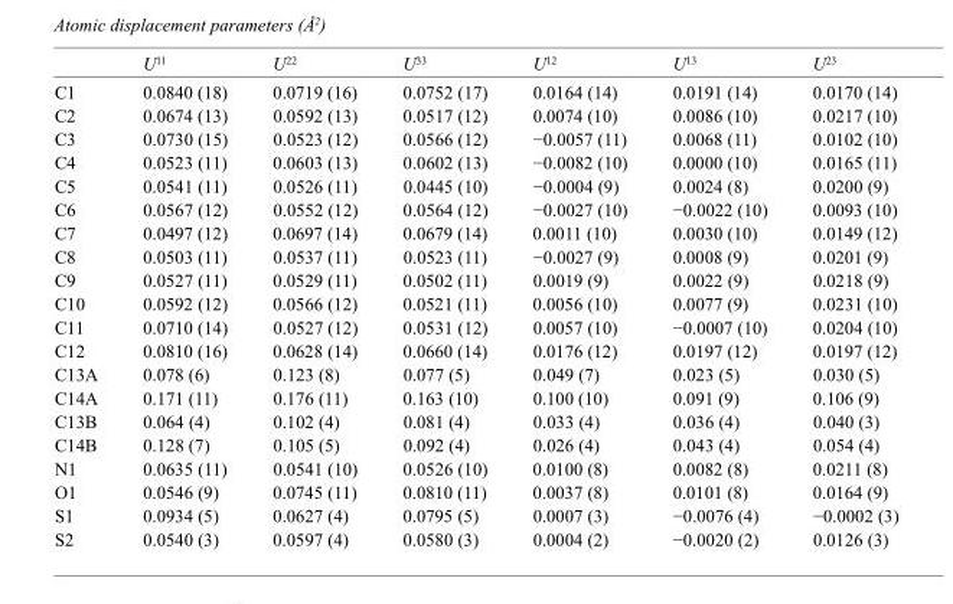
<table><thead><tr><td></td><td>U<sup>11</sup></td><td>U<sup>22</sup></td><td>U<sup>33</sup></td><td>U<sup>12</sup></td><td>U<sup>13</sup></td><td>U<sup>23</sup></td></tr></thead><tbody><tr><td>C1</td><td>0.0840 (18)</td><td>0.0719 (16)</td><td>0.0752 (17)</td><td>0.0164 (14)</td><td>0.0191 (14)</td><td>0.0170 (14)</td></tr><tr><td>C2</td><td>0.0674 (13)</td><td>0.0592 (13)</td><td>0.0517 (12)</td><td>0.0074 (10)</td><td>0.0086 (10)</td><td>0.0217 (10)</td></tr><tr><td>C3</td><td>0.0730 (15)</td><td>0.0523 (12)</td><td>0.0566 (12)</td><td>−0.0057 (11)</td><td>0.0068 (11)</td><td>0.0102 (10)</td></tr><tr><td>C4</td><td>0.0523 (11)</td><td>0.0603 (13)</td><td>0.0602 (13)</td><td>−0.0082 (10)</td><td>0.0000 (10)</td><td>0.0165 (11)</td></tr><tr><td>C5</td><td>0.0541 (11)</td><td>0.0526 (11)</td><td>0.0445 (10)</td><td>−0.0004 (9)</td><td>0.0024 (8)</td><td>0.0200 (9)</td></tr><tr><td>C6</td><td>0.0567 (12)</td><td>0.0552 (12)</td><td>0.0564 (12)</td><td>−0.0027 (10)</td><td>−0.0022 (10)</td><td>0.0093 (10)</td></tr><tr><td>C7</td><td>0.0497 (12)</td><td>0.0697 (14)</td><td>0.0679 (14)</td><td>0.0011 (10)</td><td>0.0030 (10)</td><td>0.0149 (12)</td></tr><tr><td>C8</td><td>0.0503 (11)</td><td>0.0537 (11)</td><td>0.0523 (11)</td><td>−0.0027 (9)</td><td>0.0008 (9)</td><td>0.0201 (9)</td></tr><tr><td>C9</td><td>0.0527 (11)</td><td>0.0529 (11)</td><td>0.0502 (11)</td><td>0.0019 (9)</td><td>0.0022 (9)</td><td>0.0218 (9)</td></tr><tr><td>C10</td><td>0.0592 (12)</td><td>0.0566 (12)</td><td>0.0521 (11)</td><td>0.0056 (10)</td><td>0.0077 (9)</td><td>0.0231 (10)</td></tr><tr><td>C11</td><td>0.0710 (14)</td><td>0.0527 (12)</td><td>0.0531 (12)</td><td>0.0057 (10)</td><td>−0.0007 (10)</td><td>0.0204 (10)</td></tr><tr><td>C12</td><td>0.0810 (16)</td><td>0.0628 (14)</td><td>0.0660 (14)</td><td>0.0176 (12)</td><td>0.0197 (12)</td><td>0.0197 (12)</td></tr><tr><td>C13A</td><td>0.078 (6)</td><td>0.123 (8)</td><td>0.077 (5)</td><td>0.049 (7)</td><td>0.023 (5)</td><td>0.030 (5)</td></tr><tr><td>C14A</td><td>0.171 (11)</td><td>0.176 (11)</td><td>0.163 (10)</td><td>0.100 (10)</td><td>0.091 (9)</td><td>0.106 (9)</td></tr><tr><td>C13B</td><td>0.064 (4)</td><td>0.102 (4)</td><td>0.081 (4)</td><td>0.033 (4)</td><td>0.036 (4)</td><td>0.040 (3)</td></tr><tr><td>C14B</td><td>0.128 (7)</td><td>0.105 (5)</td><td>0.092 (4)</td><td>0.026 (4)</td><td>0.043 (4)</td><td>0.054 (4)</td></tr><tr><td>N1</td><td>0.0635 (11)</td><td>0.0541 (10)</td><td>0.0526 (10)</td><td>0.0100 (8)</td><td>0.0082 (8)</td><td>0.0211 (8)</td></tr><tr><td>O1</td><td>0.0546 (9)</td><td>0.0745 (11)</td><td>0.0810 (11)</td><td>0.0037 (8)</td><td>0.0101 (8)</td><td>0.0164 (9)</td></tr><tr><td>S1</td><td>0.0934 (5)</td><td>0.0627 (4)</td><td>0.0795 (5)</td><td>0.0007 (3)</td><td>−0.0076 (4)</td><td>−0.0002 (3)</td></tr><tr><td>S2</td><td>0.0540 (3)</td><td>0.0597 (4)</td><td>0.0580 (3)</td><td>0.0004 (2)</td><td>−0.0020 (2)</td><td>0.0126 (3)</td></tr></tbody></table>